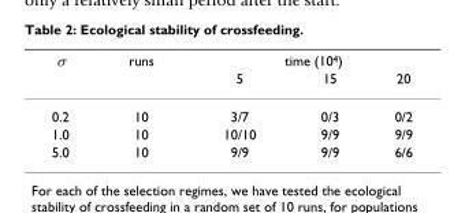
<table><thead><tr><td rowspan="2">σ</td><td rowspan="2">runs</td><td colspan="3">time (10<sup>4</sup>)</td></tr><tr><td>5</td><td>15</td><td>20</td></tr></thead><tbody><tr><td>0.2</td><td>10</td><td>3/7</td><td>0/3</td><td>0/2</td></tr><tr><td>1.0</td><td>10</td><td>10/10</td><td>9/9</td><td>9/9</td></tr><tr><td>5.0</td><td>10</td><td>9/9</td><td>9/9</td><td>6/6</td></tr></tbody></table>